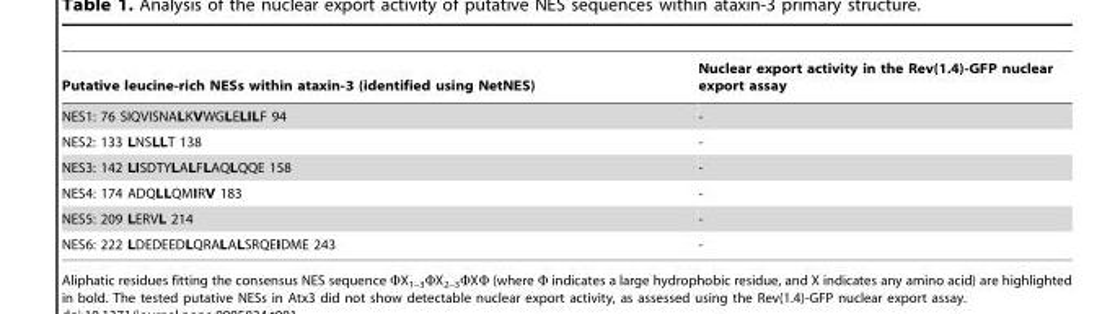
<table><thead><tr><td>Putative leucine-rich NESs within ataxin-3 (identified using NetNES)</td><td>Nuclear export activity in the Rev(1.4)-GFP nuclear export assay</td></tr></thead><tbody><tr><td>NES1: 76 SIQVISNALKVWGLELILF 94</td><td>-</td></tr><tr><td>NES2: 133 LNSLLT 138</td><td>-</td></tr><tr><td>NES3: 142 LISDTYLALFLAQLQQE 158</td><td>-</td></tr><tr><td>NES4: 174 ADQLLQMIRV 183</td><td>-</td></tr><tr><td>NES5: 209 LERVL 214</td><td>-</td></tr><tr><td>NES6: 222 LDEDEEDLQRALALSRQEIDME 243</td><td>-</td></tr></tbody></table>